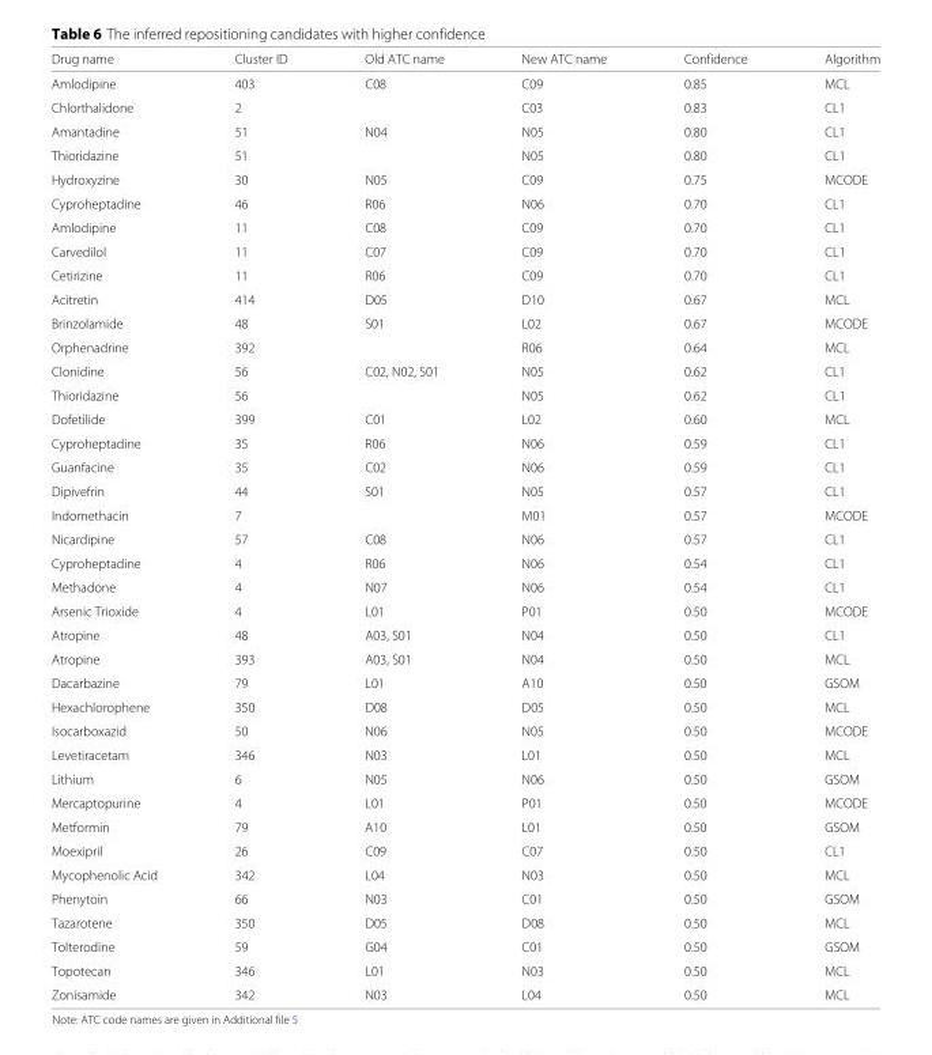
<table><thead><tr><td>Drug name</td><td>Cluster ID</td><td>Old ATC name</td><td>New ATC name</td><td>Confidence</td><td>Algorithm</td></tr></thead><tbody><tr><td>Amlodipine</td><td>403</td><td>C08</td><td>C09</td><td>0.85</td><td>MCL</td></tr><tr><td>Chlorthalidone</td><td>2</td><td></td><td>C03</td><td>0.83</td><td>CL1</td></tr><tr><td>Amantadine</td><td>51</td><td>N04</td><td>N05</td><td>0.80</td><td>CL1</td></tr><tr><td>Thioridazine</td><td>51</td><td></td><td>N05</td><td>0.80</td><td>CL1</td></tr><tr><td>Hydroxyzine</td><td>30</td><td>N05</td><td>C09</td><td>0.75</td><td>MCODE</td></tr><tr><td>Cyproheptadine</td><td>46</td><td>R06</td><td>N06</td><td>0.70</td><td>CL1</td></tr><tr><td>Amlodipine</td><td>11</td><td>C08</td><td>C09</td><td>0.70</td><td>CL1</td></tr><tr><td>Carvedilol</td><td>11</td><td>C07</td><td>C09</td><td>0.70</td><td>CL1</td></tr><tr><td>Cetirizine</td><td>11</td><td>R06</td><td>C09</td><td>0.70</td><td>CL1</td></tr><tr><td>Acitretin</td><td>414</td><td>D05</td><td>D10</td><td>0.67</td><td>MCL</td></tr><tr><td>Brinzolamide</td><td>48</td><td>S01</td><td>L02</td><td>0.67</td><td>MCODE</td></tr><tr><td>Orphenadrine</td><td>392</td><td></td><td>R06</td><td>0.64</td><td>MCL</td></tr><tr><td>Clonidine</td><td>56</td><td>C02, N02, S01</td><td>N05</td><td>0.62</td><td>CL1</td></tr><tr><td>Thioridazine</td><td>56</td><td></td><td>N05</td><td>0.62</td><td>CL1</td></tr><tr><td>Dofetilide</td><td>399</td><td>C01</td><td>L02</td><td>0.60</td><td>MCL</td></tr><tr><td>Cyproheptadine</td><td>35</td><td>R06</td><td>N06</td><td>0.59</td><td>CL1</td></tr><tr><td>Guanfacine</td><td>35</td><td>C02</td><td>N06</td><td>0.59</td><td>CL1</td></tr><tr><td>Dipivefrin</td><td>44</td><td>S01</td><td>N05</td><td>0.57</td><td>CL1</td></tr><tr><td>Indomethacin</td><td>7</td><td></td><td>M01</td><td>0.57</td><td>MCODE</td></tr><tr><td>Nicardipine</td><td>57</td><td>C08</td><td>N06</td><td>0.57</td><td>CL1</td></tr><tr><td>Cyproheptadine</td><td>4</td><td>R06</td><td>N06</td><td>0.54</td><td>CL1</td></tr><tr><td>Methadone</td><td>4</td><td>N07</td><td>N06</td><td>0.54</td><td>CL1</td></tr><tr><td>Arsenic Trioxide</td><td>4</td><td>L01</td><td>P01</td><td>0.50</td><td>MCODE</td></tr><tr><td>Atropine</td><td>48</td><td>A03, S01</td><td>N04</td><td>0.50</td><td>CL1</td></tr><tr><td>Atropine</td><td>393</td><td>A03, S01</td><td>N04</td><td>0.50</td><td>MCL</td></tr><tr><td>Dacarbazine</td><td>79</td><td>L01</td><td>A10</td><td>0.50</td><td>GSOM</td></tr><tr><td>Hexachlorophene</td><td>350</td><td>D08</td><td>D05</td><td>0.50</td><td>MCL</td></tr><tr><td>Isocarboxazid</td><td>50</td><td>N06</td><td>N05</td><td>0.50</td><td>MCODE</td></tr><tr><td>Levetiracetam</td><td>346</td><td>N03</td><td>L01</td><td>0.50</td><td>MCL</td></tr><tr><td>Lithium</td><td>6</td><td>N05</td><td>N06</td><td>0.50</td><td>GSOM</td></tr><tr><td>Mercaptopurine</td><td>4</td><td>L01</td><td>P01</td><td>0.50</td><td>MCODE</td></tr><tr><td>Metformin</td><td>79</td><td>A10</td><td>L01</td><td>0.50</td><td>GSOM</td></tr><tr><td>Moexipril</td><td>26</td><td>C09</td><td>C07</td><td>0.50</td><td>CL1</td></tr><tr><td>Mycophenolic Acid</td><td>342</td><td>L04</td><td>N03</td><td>0.50</td><td>MCL</td></tr><tr><td>Phenytoin</td><td>66</td><td>N03</td><td>C01</td><td>0.50</td><td>GSOM</td></tr><tr><td>Tazarotene</td><td>350</td><td>D05</td><td>D08</td><td>0.50</td><td>MCL</td></tr><tr><td>Tolterodine</td><td>59</td><td>G04</td><td>C01</td><td>0.50</td><td>GSOM</td></tr><tr><td>Topotecan</td><td>346</td><td>L01</td><td>N03</td><td>0.50</td><td>MCL</td></tr><tr><td>Zonisamide</td><td>342</td><td>N03</td><td>L04</td><td>0.50</td><td>MCL</td></tr></tbody></table>